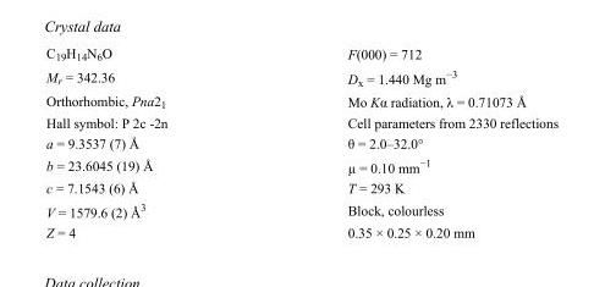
<table><tbody><tr><td>C<sub>19</sub>H<sub>14</sub>N<sub>6</sub>O</td><td>F(000) = 712</td></tr><tr><td>M<sub>r</sub> = 342.36</td><td>D<sub>x</sub> = 1.440 Mg m<sup>−3</sup></td></tr><tr><td>Orthorhombic, Pna2<sub>1</sub></td><td>Mo Kα radiation, λ = 0.71073 Å</td></tr><tr><td>Hall symbol: P 2c -2n</td><td>Cell parameters from 2330 reflections</td></tr><tr><td>a = 9.3537 (7) Å</td><td>θ = 2.0–32.0°</td></tr><tr><td>b = 23.6045 (19) Å</td><td>µ = 0.10 mm<sup>−1</sup></td></tr><tr><td>c = 7.1543 (6) Å</td><td>T = 293 K</td></tr><tr><td>V = 1579.6 (2) Å<sup>3</sup></td><td>Block, colourless</td></tr><tr><td>Z = 4</td><td>0.35 × 0.25 × 0.20 mm</td></tr></tbody></table>